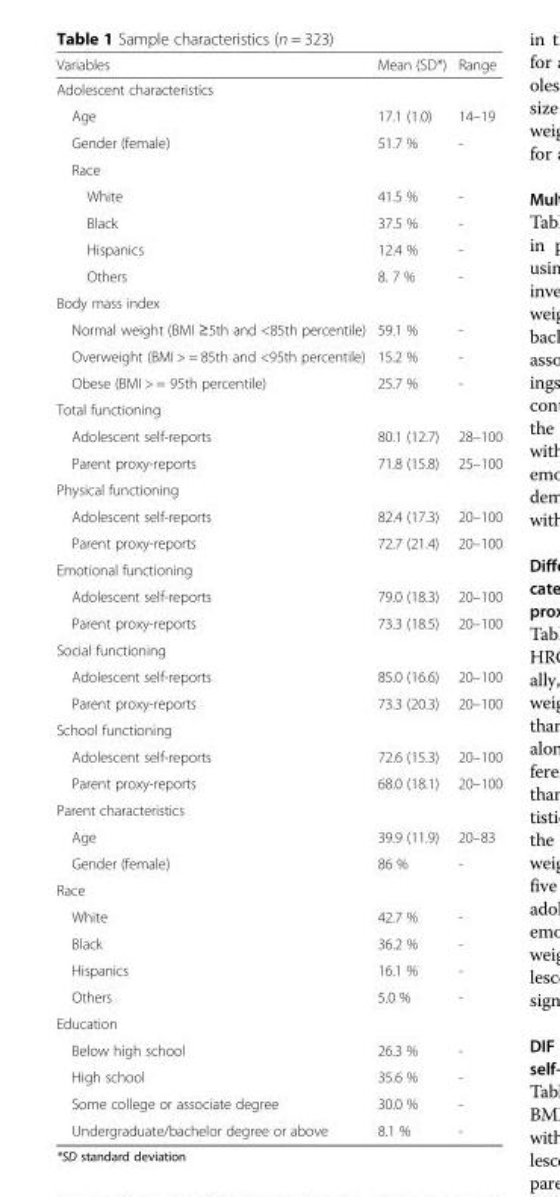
<table><thead><tr><td>Variables</td><td>Mean (SD*)</td><td>Range</td></tr></thead><tbody><tr><td colspan="3">Adolescent characteristics</td></tr><tr><td>Age</td><td>17.1 (1.0)</td><td>14–19</td></tr><tr><td>Gender (female)</td><td>51.7 %</td><td>-</td></tr><tr><td colspan="3">Race</td></tr><tr><td>White</td><td>41.5 %</td><td>-</td></tr><tr><td>Black</td><td>37.5 %</td><td>-</td></tr><tr><td>Hispanics</td><td>12.4 %</td><td>-</td></tr><tr><td>Others</td><td>8. 7 %</td><td>-</td></tr><tr><td colspan="3">Body mass index</td></tr><tr><td>Normal weight (BMI ≥5th and &lt;85th percentile)</td><td>59.1 %</td><td>-</td></tr><tr><td>Overweight (BMI &gt; = 85th and &lt;95th percentile)</td><td>15.2 %</td><td>-</td></tr><tr><td>Obese (BMI &gt; = 95th percentile)</td><td>25.7 %</td><td>-</td></tr><tr><td colspan="3">Total functioning</td></tr><tr><td>Adolescent self-reports</td><td>80.1 (12.7)</td><td>28–100</td></tr><tr><td>Parent proxy-reports</td><td>71.8 (15.8)</td><td>25–100</td></tr><tr><td colspan="3">Physical functioning</td></tr><tr><td>Adolescent self-reports</td><td>82.4 (17.3)</td><td>20–100</td></tr><tr><td>Parent proxy-reports</td><td>72.7 (21.4)</td><td>20–100</td></tr><tr><td colspan="3">Emotional functioning</td></tr><tr><td>Adolescent self-reports</td><td>79.0 (18.3)</td><td>20–100</td></tr><tr><td>Parent proxy-reports</td><td>73.3 (18.5)</td><td>20–100</td></tr><tr><td colspan="3">Social functioning</td></tr><tr><td>Adolescent self-reports</td><td>85.0 (16.6)</td><td>20–100</td></tr><tr><td>Parent proxy-reports</td><td>73.3 (20.3)</td><td>20–100</td></tr><tr><td colspan="3">School functioning</td></tr><tr><td>Adolescent self-reports</td><td>72.6 (15.3)</td><td>20–100</td></tr><tr><td>Parent proxy-reports</td><td>68.0 (18.1)</td><td>20–100</td></tr><tr><td colspan="3">Parent characteristics</td></tr><tr><td>Age</td><td>39.9 (11.9)</td><td>20–83</td></tr><tr><td>Gender (female)</td><td>86 %</td><td>-</td></tr><tr><td colspan="3">Race</td></tr><tr><td>White</td><td>42.7 %</td><td>-</td></tr><tr><td>Black</td><td>36.2 %</td><td>-</td></tr><tr><td>Hispanics</td><td>16.1 %</td><td>-</td></tr><tr><td>Others</td><td>5.0 %</td><td>-</td></tr><tr><td colspan="3">Education</td></tr><tr><td>Below high school</td><td>26.3 %</td><td>-</td></tr><tr><td>High school</td><td>35.6 %</td><td>-</td></tr><tr><td>Some college or associate degree</td><td>30.0 %</td><td>-</td></tr><tr><td>Undergraduate/bachelor degree or above</td><td>8.1 %</td><td>-</td></tr></tbody></table>